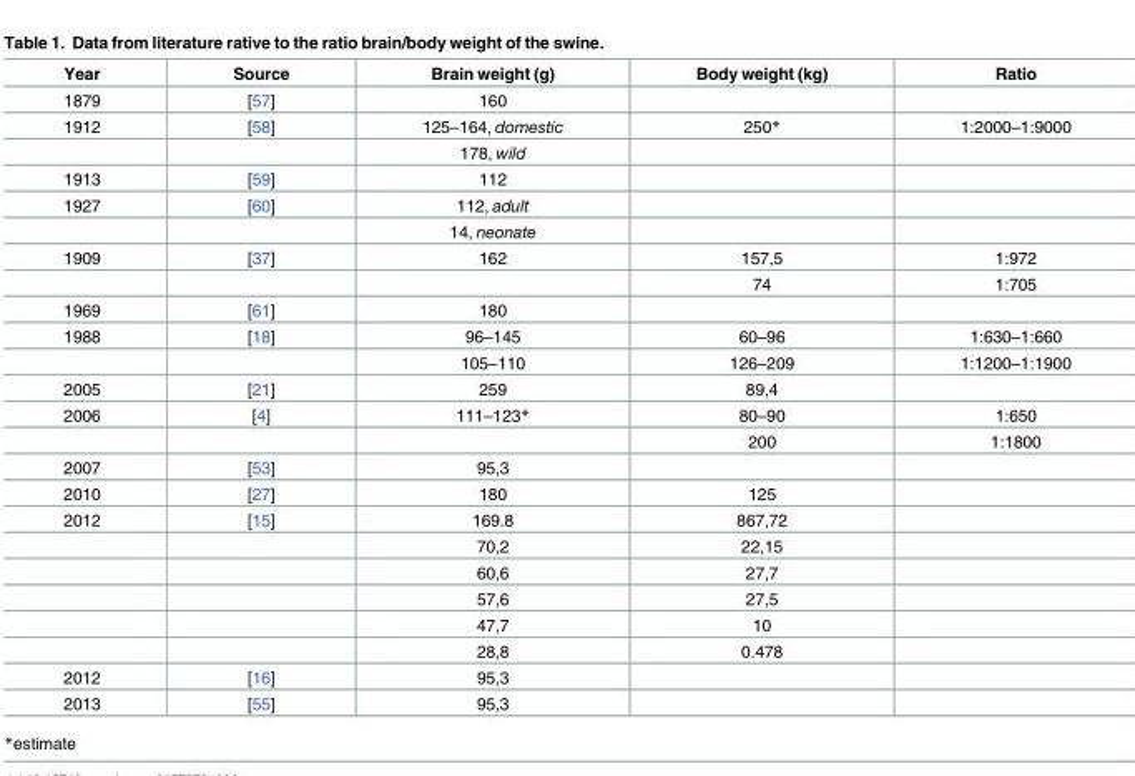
<table><thead><tr><td>Year</td><td>Source</td><td>Brain weight (g)</td><td>Body weight (kg)</td><td>Ratio</td></tr></thead><tbody><tr><td>1879</td><td>[57]</td><td>160</td><td></td><td></td></tr><tr><td rowspan="2">1912</td><td>[58]</td><td>125–164, domestic</td><td>250*</td><td>1:2000–1:9000</td></tr><tr><td></td><td>178, wild</td><td></td><td></td></tr><tr><td>1913</td><td>[59]</td><td>112</td><td></td><td></td></tr><tr><td rowspan="2">1927</td><td>[60]</td><td>112, adult</td><td></td><td></td></tr><tr><td></td><td>14, neonate</td><td></td><td></td></tr><tr><td rowspan="2">1909</td><td>[37]</td><td>162</td><td>157,5</td><td>1:972</td></tr><tr><td></td><td></td><td>74</td><td>1:705</td></tr><tr><td>1969</td><td>[61]</td><td>180</td><td></td><td></td></tr><tr><td rowspan="2">1988</td><td>[18]</td><td>96–145</td><td>60–96</td><td>1:630–1:660</td></tr><tr><td></td><td>105–110</td><td>126–209</td><td>1:1200–1:1900</td></tr><tr><td>2005</td><td>[21]</td><td>259</td><td>89,4</td><td></td></tr><tr><td rowspan="2">2006</td><td>[4]</td><td>111–123*</td><td>80–90</td><td>1:650</td></tr><tr><td></td><td></td><td>200</td><td>1:1800</td></tr><tr><td>2007</td><td>[53]</td><td>95,3</td><td></td><td></td></tr><tr><td>2010</td><td>[27]</td><td>180</td><td>125</td><td></td></tr><tr><td rowspan="6">2012</td><td>[15]</td><td>169.8</td><td>867,72</td><td></td></tr><tr><td></td><td>70,2</td><td>22,15</td><td></td></tr><tr><td></td><td>60,6</td><td>27,7</td><td></td></tr><tr><td></td><td>57,6</td><td>27,5</td><td></td></tr><tr><td></td><td>47,7</td><td>10</td><td></td></tr><tr><td></td><td>28,8</td><td>0.478</td><td></td></tr><tr><td>2012</td><td>[16]</td><td>95,3</td><td></td><td></td></tr><tr><td>2013</td><td>[55]</td><td>95,3</td><td></td><td></td></tr></tbody></table>